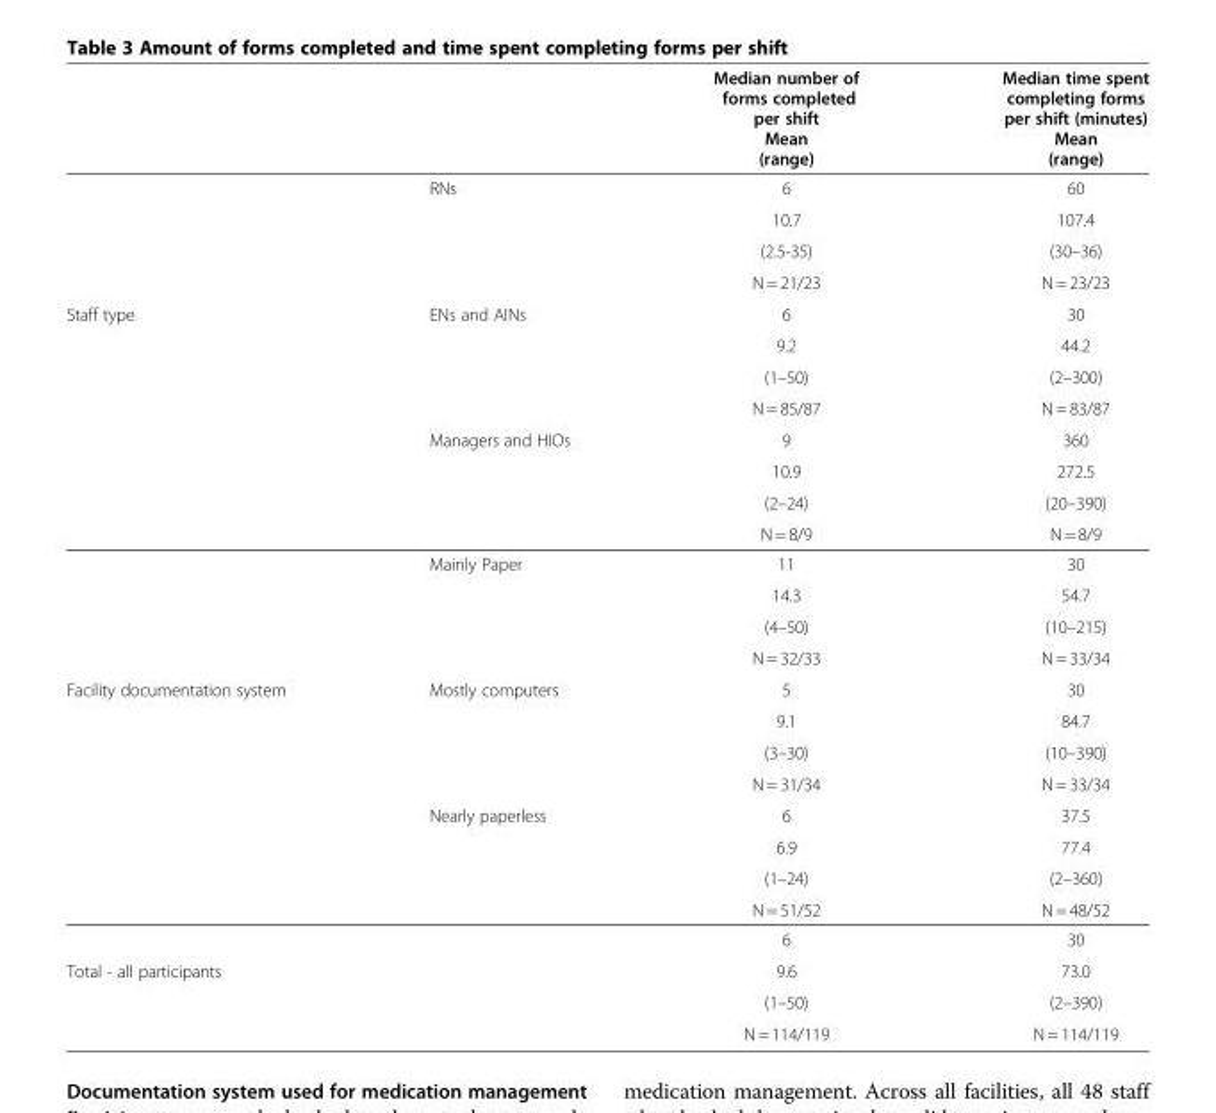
<table><thead><tr><td></td><td></td><td>Median number of forms completed per shift Mean (range)</td><td>Median time spent completing forms per shift (minutes) Mean (range)</td></tr></thead><tbody><tr><td></td><td>RNs</td><td>6</td><td>60</td></tr><tr><td></td><td></td><td>10.7</td><td>107.4</td></tr><tr><td></td><td></td><td>(2.5-35)</td><td>(30–36)</td></tr><tr><td></td><td></td><td>N = 21/23</td><td>N = 23/23</td></tr><tr><td rowspan="12">Staff type</td><td>ENs and AINs</td><td>6</td><td>30</td></tr><tr><td></td><td>9.2</td><td>44.2</td></tr><tr><td></td><td>(1–50)</td><td>(2–300)</td></tr><tr><td></td><td>N = 85/87</td><td>N = 83/87</td></tr><tr><td>Managers and HIOs</td><td>9</td><td>360</td></tr><tr><td></td><td>10.9</td><td>272.5</td></tr><tr><td></td><td>(2–24)</td><td>(20–390)</td></tr><tr><td></td><td>N = 8/9</td><td>N = 8/9</td></tr><tr><td>Mainly Paper</td><td>11</td><td>30</td></tr><tr><td></td><td>14.3</td><td>54.7</td></tr><tr><td></td><td>(4–50)</td><td>(10–215)</td></tr><tr><td></td><td>N = 32/33</td><td>N = 33/34</td></tr><tr><td rowspan="9">Facility documentation system</td><td>Mostly computers</td><td>5</td><td>30</td></tr><tr><td></td><td>9.1</td><td>84.7</td></tr><tr><td></td><td>(3–30)</td><td>(10–390)</td></tr><tr><td></td><td>N = 31/34</td><td>N = 33/34</td></tr><tr><td>Nearly paperless</td><td>6</td><td>37.5</td></tr><tr><td></td><td>6.9</td><td>77.4</td></tr><tr><td></td><td>(1–24)</td><td>(2–360)</td></tr><tr><td></td><td>N = 51/52</td><td>N = 48/52</td></tr><tr><td></td><td>6</td><td>30</td></tr><tr><td rowspan="3">Total - all participants</td><td></td><td>9.6</td><td>73.0</td></tr><tr><td></td><td>(1–50)</td><td>(2–390)</td></tr><tr><td></td><td>N = 114/119</td><td>N = 114/119</td></tr></tbody></table>